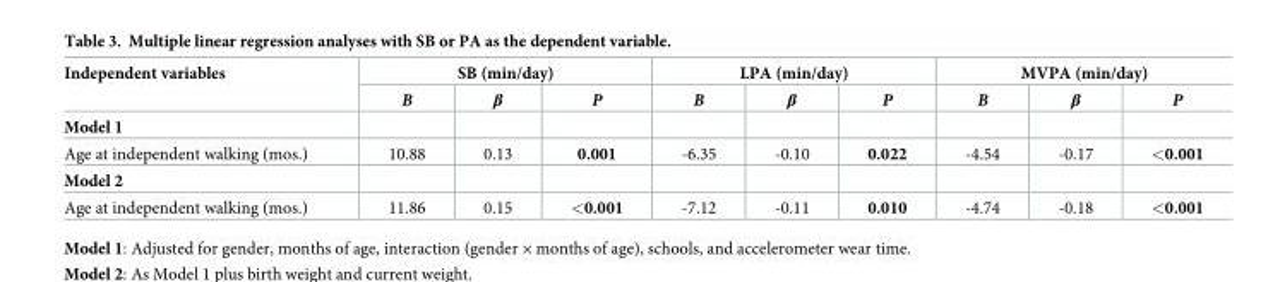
<table><thead><tr><td rowspan="2">Independent variables</td><td colspan="3">SB (min/day)</td><td colspan="3">LPA (min/day)</td><td colspan="3">MVPA (min/day)</td></tr><tr><td>B</td><td>β</td><td>P</td><td>B</td><td>β</td><td>P</td><td>B</td><td>β</td><td>P</td></tr></thead><tbody><tr><td colspan="10">Model 1</td></tr><tr><td>Age at independent walking (mos.)</td><td>10.88</td><td>0.13</td><td>0.001</td><td>-6.35</td><td>-0.10</td><td>0.022</td><td>-4.54</td><td>-0.17</td><td>&lt;0.001</td></tr><tr><td colspan="10">Model 2</td></tr><tr><td>Age at independent walking (mos.)</td><td>11.86</td><td>0.15</td><td>&lt;0.001</td><td>-7.12</td><td>-0.11</td><td>0.010</td><td>-4.74</td><td>-0.18</td><td>&lt;0.001</td></tr></tbody></table>